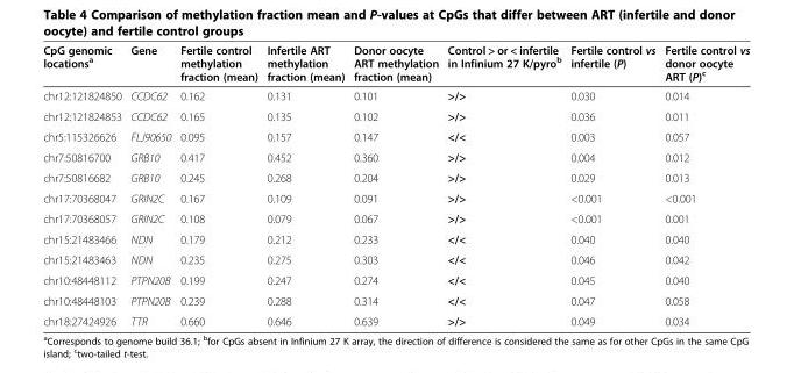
<table><thead><tr><td>CpG genomic locations<sup>a</sup></td><td>Gene</td><td>Fertile control methylation fraction (mean)</td><td>Infertile ART methylation fraction (mean)</td><td>Donor oocyte ART methylation fraction (mean)</td><td>Control &gt; or &lt; infertile in Infinium 27 K/pyro<sup>b</sup></td><td>Fertile control vs infertile (P)</td><td>Fertile control vs donor oocyte ART (P)<sup>c</sup></td></tr></thead><tbody><tr><td>chr12:121824850</td><td>CCDC62</td><td>0.162</td><td>0.131</td><td>0.101</td><td>&gt;/&gt;</td><td>0.030</td><td>0.014</td></tr><tr><td>chr12:121824853</td><td>CCDC62</td><td>0.165</td><td>0.135</td><td>0.102</td><td>&gt;/&gt;</td><td>0.036</td><td>0.011</td></tr><tr><td>chr5:115326626</td><td>FLJ90650</td><td>0.095</td><td>0.157</td><td>0.147</td><td>&lt;/&lt;</td><td>0.003</td><td>0.057</td></tr><tr><td>chr7:50816700</td><td>GRB10</td><td>0.417</td><td>0.452</td><td>0.360</td><td>&gt;/&gt;</td><td>0.004</td><td>0.012</td></tr><tr><td>chr7:50816682</td><td>GRB10</td><td>0.245</td><td>0.268</td><td>0.204</td><td>&gt;/&gt;</td><td>0.029</td><td>0.013</td></tr><tr><td>chr17:70368047</td><td>GRIN2C</td><td>0.167</td><td>0.109</td><td>0.091</td><td>&gt;/&gt;</td><td>&lt;0.001</td><td>&lt;0.001</td></tr><tr><td>chr17:70368057</td><td>GRIN2C</td><td>0.108</td><td>0.079</td><td>0.067</td><td>&gt;/&gt;</td><td>&lt;0.001</td><td>0.001</td></tr><tr><td>chr15:21483466</td><td>NDN</td><td>0.179</td><td>0.212</td><td>0.233</td><td>&lt;/&lt;</td><td>0.040</td><td>0.040</td></tr><tr><td>chr15:21483463</td><td>NDN</td><td>0.235</td><td>0.275</td><td>0.303</td><td>&lt;/&lt;</td><td>0.046</td><td>0.042</td></tr><tr><td>chr10:48448112</td><td>PTPN20B</td><td>0.199</td><td>0.247</td><td>0.274</td><td>&lt;/&lt;</td><td>0.045</td><td>0.040</td></tr><tr><td>chr10:48448103</td><td>PTPN20B</td><td>0.239</td><td>0.288</td><td>0.314</td><td>&lt;/&lt;</td><td>0.047</td><td>0.058</td></tr><tr><td>chr18:27424926</td><td>TTR</td><td>0.660</td><td>0.646</td><td>0.639</td><td>&gt;/&gt;</td><td>0.049</td><td>0.034</td></tr></tbody></table>